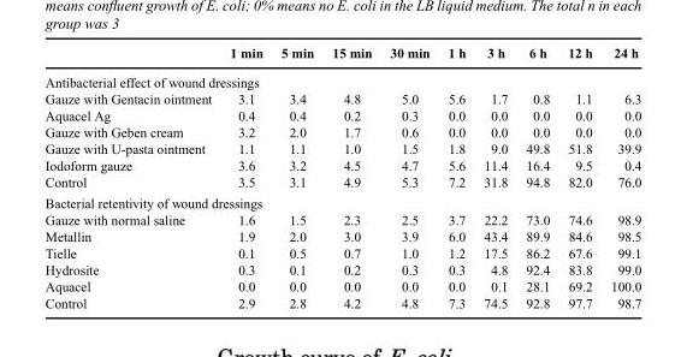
<table><thead><tr><td></td><td>1 min</td><td>5 min</td><td>15 min</td><td>30 min</td><td>1 h</td><td>3 h</td><td>6 h</td><td>12 h</td><td>24 h</td></tr></thead><tbody><tr><td colspan="10">Antibacterial effect of wound dressings</td></tr><tr><td>Gauze with Gentacin ointment</td><td>3.1</td><td>3.4</td><td>4.8</td><td>5.0</td><td>5.6</td><td>1.7</td><td>0.8</td><td>1.1</td><td>6.3</td></tr><tr><td>Aquacel Ag</td><td>0.4</td><td>0.4</td><td>0.2</td><td>0.3</td><td>0.0</td><td>0.0</td><td>0.0</td><td>0.0</td><td>0.0</td></tr><tr><td>Gauze with Geben cream</td><td>3.2</td><td>2.0</td><td>1.7</td><td>0.6</td><td>0.0</td><td>0.0</td><td>0.0</td><td>0.0</td><td>0.0</td></tr><tr><td>Gauze with U-pasta ointment</td><td>1.1</td><td>1.1</td><td>1.0</td><td>1.5</td><td>1.8</td><td>9.0</td><td>49.8</td><td>51.8</td><td>39.9</td></tr><tr><td>Iodoform gauze</td><td>3.6</td><td>3.2</td><td>4.5</td><td>4.7</td><td>5.6</td><td>11.4</td><td>16.4</td><td>9.5</td><td>0.4</td></tr><tr><td>Control</td><td>3.5</td><td>3.1</td><td>4.9</td><td>5.3</td><td>7.2</td><td>31.8</td><td>94.8</td><td>82.0</td><td>76.0</td></tr><tr><td colspan="10">Bacterial retentivity of wound dressings</td></tr><tr><td>Gauze with normal saline</td><td>1.6</td><td>1.5</td><td>2.3</td><td>2.5</td><td>3.7</td><td>22.2</td><td>73.0</td><td>74.6</td><td>98.9</td></tr><tr><td>Metallin</td><td>1.9</td><td>2.0</td><td>3.0</td><td>3.9</td><td>6.0</td><td>43.4</td><td>89.9</td><td>84.6</td><td>98.5</td></tr><tr><td>Tielle</td><td>0.1</td><td>0.5</td><td>0.7</td><td>1.0</td><td>1.2</td><td>17.5</td><td>86.2</td><td>67.6</td><td>99.1</td></tr><tr><td>Hydrosite</td><td>0.3</td><td>0.1</td><td>0.2</td><td>0.3</td><td>0.3</td><td>4.8</td><td>92.4</td><td>83.8</td><td>99.0</td></tr><tr><td>Aquacel</td><td>0.0</td><td>0.0</td><td>0.0</td><td>0.0</td><td>0.0</td><td>0.1</td><td>28.1</td><td>69.2</td><td>100.0</td></tr><tr><td>Control</td><td>2.9</td><td>2.8</td><td>4.2</td><td>4.8</td><td>7.3</td><td>74.5</td><td>92.8</td><td>97.7</td><td>98.7</td></tr></tbody></table>